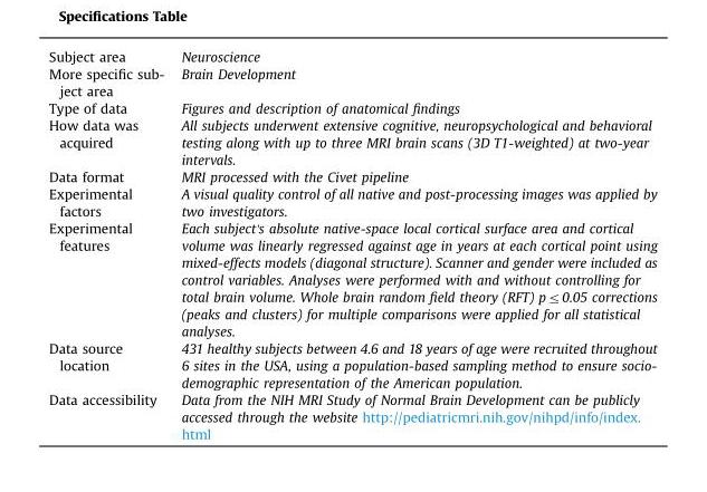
<table><tbody><tr><td>Subject area</td><td>Neuroscience</td></tr><tr><td>More specific sub- ject area</td><td>Brain Development</td></tr><tr><td>Type of data</td><td>Figures and description of anatomical findings</td></tr><tr><td>How data was acquired</td><td>All subjects underwent extensive cognitive, neuropsychological and behavioral testing along with up to three MRI brain scans (3D T1-weighted) at two-year intervals.</td></tr><tr><td>Data format</td><td>MRI processed with the Civet pipeline</td></tr><tr><td>Experimental factors</td><td>A visual quality control of all native and post-processing images was applied by two investigators.</td></tr><tr><td>Experimental features</td><td>Each subject&#x27;s absolute native-space local cortical surface area and cortical volume was linearly regressed against age in years at each cortical point using mixed-effects models (diagonal structure). Scanner and gender were included as control variables. Analyses were performed with and without controlling for total brain volume. Whole brain random field theory (RFT) p≤0.05 corrections (peaks and clusters) for multiple comparisons were applied for all statistical analyses.</td></tr><tr><td>Data source location</td><td>431 healthy subjects between 4.6 and 18 years of age were recruited throughout 6 sites in the USA, using a population-based sampling method to ensure socio- demographic representation of the American population.</td></tr><tr><td>Data accessibility</td><td>Data from the NIH MRI Study of Normal Brain Development can be publicly accessed through the website http://pediatricmri.nih.gov/nihpd/info/index. html</td></tr></tbody></table>